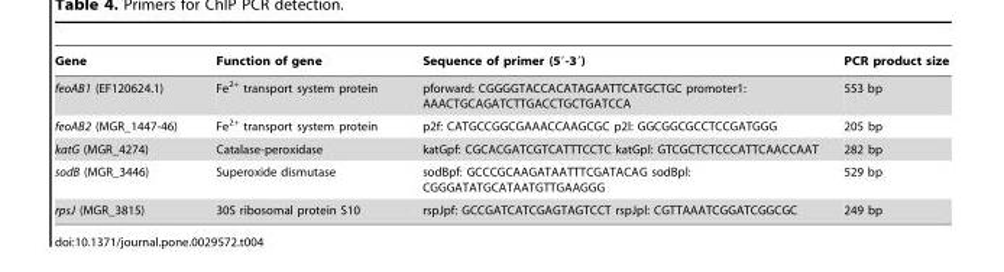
<table><thead><tr><td>Gene</td><td>Function of gene</td><td>Sequence of primer (5′-3′)</td><td>PCR product size</td></tr></thead><tbody><tr><td>feoAB1 (EF120624.1)</td><td>Fe<sup>2+</sup> transport system protein</td><td>pforward: CGGGGTACCACATAGAATTCATGCTGC promoter1: AAACTGCAGATCTTGACCTGCTGATCCA</td><td>553 bp</td></tr><tr><td>feoAB2 (MGR_1447-46)</td><td>Fe<sup>2+</sup> transport system protein</td><td>p2f: CATGCCGGCGAAACCAAGCGC p2l: GGCGGCGCCTCCGATGGG</td><td>205 bp</td></tr><tr><td>katG (MGR_4274)</td><td>Catalase-peroxidase</td><td>katGpf: CGCACGATCGTCATTTCCTC katGpl: GTCGCTCTCCCATTCAACCAAT</td><td>282 bp</td></tr><tr><td>sodB (MGR_3446)</td><td>Superoxide dismutase</td><td>sodBpf: GCCCGCAAGATAATTTCGATACAG sodBpl: CGGGATATGCATAATGTTGAAGGG</td><td>529 bp</td></tr><tr><td>rpsJ (MGR_3815)</td><td>30S ribosomal protein S10</td><td>rspJpf: GCCGATCATCGAGTAGTCCT rspJpl: CGTTAAATCGGATCGGCGC</td><td>249 bp</td></tr></tbody></table>